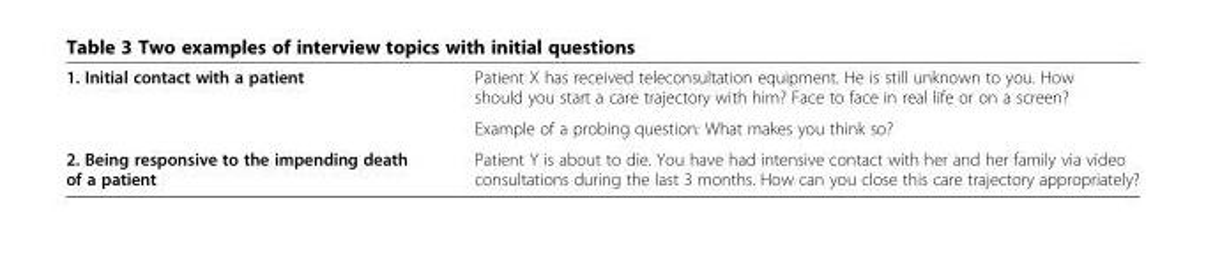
<table><tbody><tr><td rowspan="2">1. Initial contact with a patient</td><td>Patient X has received teleconsultation equipment. He is still unknown to you. How should you start a care trajectory with him? Face to face in real life or on a screen?</td></tr><tr><td>Example of a probing question: What makes you think so?</td></tr><tr><td>2. Being responsive to the impending death of a patient</td><td>Patient Y is about to die. You have had intensive contact with her and her family via video consultations during the last 3 months. How can you close this care trajectory appropriately?</td></tr></tbody></table>